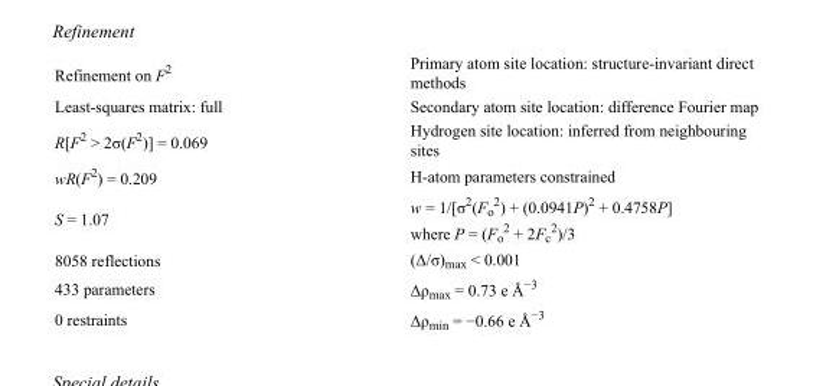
<table><tbody><tr><td>Refinement on F<sup>2</sup></td><td>Primary atom site location: structure-invariant direct methods</td></tr><tr><td>Least-squares matrix: full</td><td>Secondary atom site location: difference Fourier map</td></tr><tr><td>R[F<sup>2</sup> &gt; 2σ(F<sup>2</sup>)] = 0.069</td><td>Hydrogen site location: inferred from neighbouring sites</td></tr><tr><td>wR(F<sup>2</sup>) = 0.209</td><td>H-atom parameters constrained</td></tr><tr><td>S = 1.07</td><td>w = 1/[σ<sup>2</sup>(F<sub>o</sub> <sup>2</sup>) + (0.0941P)<sup>2</sup> + 0.4758P] where P = (F<sub>o</sub> <sup>2</sup> + 2F<sub>c</sub> <sup>2</sup>)/3</td></tr><tr><td>8058 reflections</td><td>(Δ/σ)<sub>max</sub> &lt; 0.001</td></tr><tr><td>433 parameters</td><td>Δρ<sub>max</sub> = 0.73 e Å<sup>−3</sup></td></tr><tr><td>0 restraints</td><td>Δρ<sub>min</sub> = −0.66 e Å<sup>−3</sup></td></tr></tbody></table>